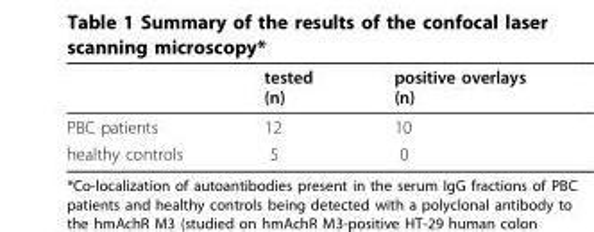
<table><thead><tr><td></td><td>tested (n)</td><td>positive overlays (n)</td></tr></thead><tbody><tr><td>PBC patients</td><td>12</td><td>10</td></tr><tr><td>healthy controls</td><td>5</td><td>0</td></tr></tbody></table>